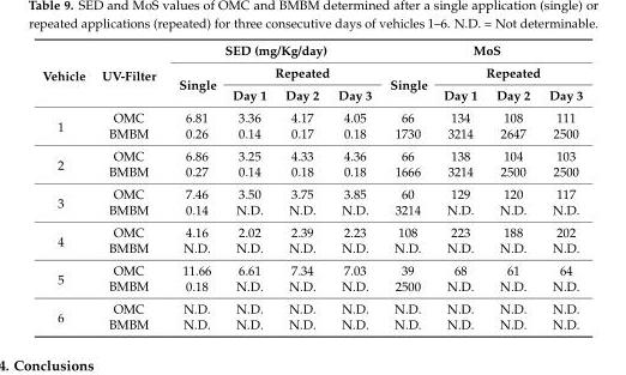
<table><thead><tr><td rowspan="3">Vehicle</td><td rowspan="3">UV-Filter</td><td colspan="4">SED (mg/Kg/day)</td><td colspan="4">MoS</td></tr><tr><td rowspan="2">Single</td><td colspan="3">Repeated</td><td rowspan="2">Single</td><td colspan="3">Repeated</td></tr><tr><td>Day 1</td><td>Day 2</td><td>Day 3</td><td>Day 1</td><td>Day 2</td><td>Day 3</td></tr></thead><tbody><tr><td rowspan="2">1</td><td>OMC</td><td>6.81</td><td>3.36</td><td>4.17</td><td>4.05</td><td>66</td><td>134</td><td>108</td><td>111</td></tr><tr><td>BMBM</td><td>0.26</td><td>0.14</td><td>0.17</td><td>0.18</td><td>1730</td><td>3214</td><td>2647</td><td>2500</td></tr><tr><td rowspan="2">2</td><td>OMC</td><td>6.86</td><td>3.25</td><td>4.33</td><td>4.36</td><td>66</td><td>138</td><td>104</td><td>103</td></tr><tr><td>BMBM</td><td>0.27</td><td>0.14</td><td>0.18</td><td>0.18</td><td>1666</td><td>3214</td><td>2500</td><td>2500</td></tr><tr><td rowspan="2">3</td><td>OMC</td><td>7.46</td><td>3.50</td><td>3.75</td><td>3.85</td><td>60</td><td>129</td><td>120</td><td>117</td></tr><tr><td>BMBM</td><td>0.14</td><td>N.D.</td><td>N.D.</td><td>N.D.</td><td>3214</td><td>N.D.</td><td>N.D.</td><td>N.D.</td></tr><tr><td rowspan="2">4</td><td>OMC</td><td>4.16</td><td>2.02</td><td>2.39</td><td>2.23</td><td>108</td><td>223</td><td>188</td><td>202</td></tr><tr><td>BMBM</td><td>N.D.</td><td>N.D.</td><td>N.D.</td><td>N.D.</td><td>N.D.</td><td>N.D.</td><td>N.D.</td><td>N.D.</td></tr><tr><td rowspan="2">5</td><td>OMC</td><td>11.66</td><td>6.61</td><td>7.34</td><td>7.03</td><td>39</td><td>68</td><td>61</td><td>64</td></tr><tr><td>BMBM</td><td>0.18</td><td>N.D.</td><td>N.D.</td><td>N.D.</td><td>2500</td><td>N.D.</td><td>N.D.</td><td>N.D.</td></tr><tr><td rowspan="2">6</td><td>OMC</td><td>N.D.</td><td>N.D.</td><td>N.D.</td><td>N.D.</td><td>N.D.</td><td>N.D.</td><td>N.D.</td><td>N.D.</td></tr><tr><td>BMBM</td><td>N.D.</td><td>N.D.</td><td>N.D.</td><td>N.D.</td><td>N.D.</td><td>N.D.</td><td>N.D.</td><td>N.D.</td></tr></tbody></table>